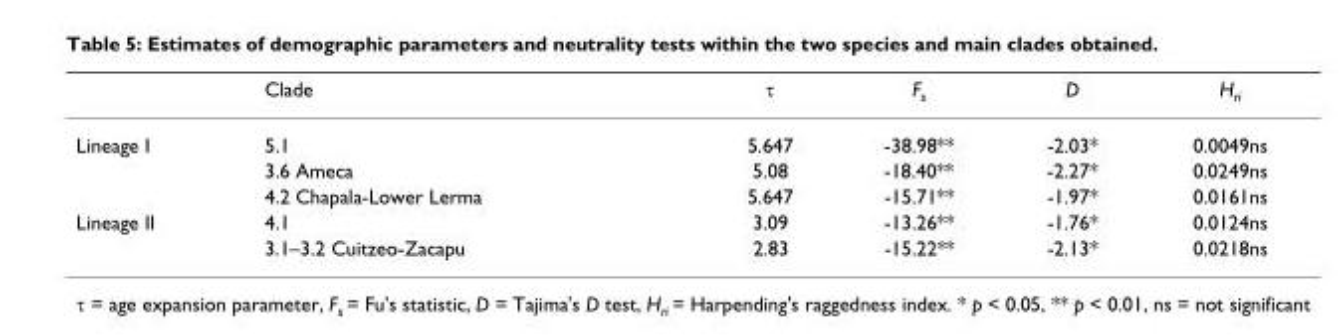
<table><thead><tr><td></td><td>Clade</td><td>τ</td><td>F<sub>s</sub></td><td>D</td><td>H<sub>ri</sub></td></tr></thead><tbody><tr><td rowspan="3">Lineage I</td><td>5.1</td><td>5.647</td><td>-38.98**</td><td>-2.03*</td><td>0.0049ns</td></tr><tr><td>3.6 Ameca</td><td>5.08</td><td>-18.40**</td><td>-2.27*</td><td>0.0249ns</td></tr><tr><td>4.2 Chapala-Lower Lerma</td><td>5.647</td><td>-15.71**</td><td>-1.97*</td><td>0.0161ns</td></tr><tr><td rowspan="2">Lineage II</td><td>4.1</td><td>3.09</td><td>-13.26**</td><td>-1.76*</td><td>0.0124ns</td></tr><tr><td>3.1–3.2 Cuitzeo-Zacapu</td><td>2.83</td><td>-15.22**</td><td>-2.13*</td><td>0.0218ns</td></tr></tbody></table>